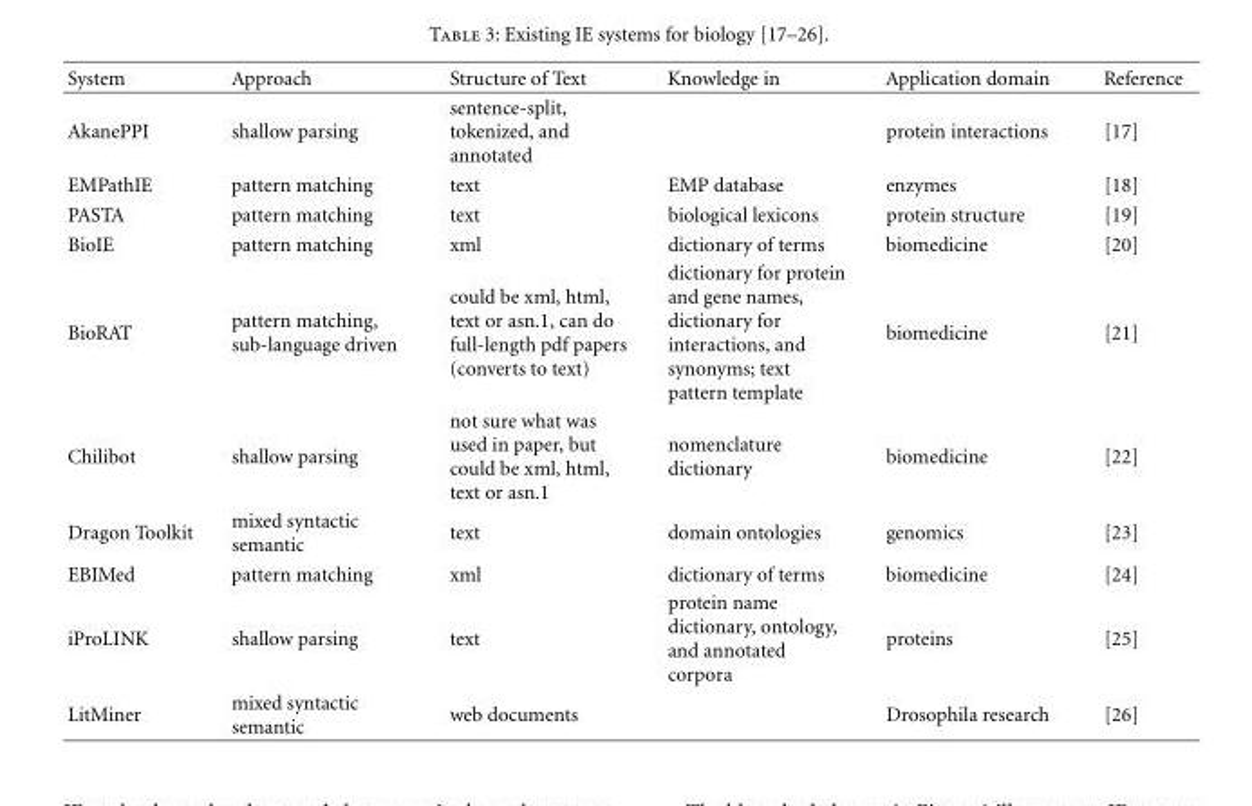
<table><thead><tr><td>System</td><td>Approach</td><td>Structure of Text</td><td>Knowledge in</td><td>Application domain</td><td>Reference</td></tr></thead><tbody><tr><td>AkanePPI</td><td>shallow parsing</td><td>sentence-split, tokenized, and annotated</td><td></td><td>protein interactions</td><td>[17]</td></tr><tr><td>EMPathIE</td><td>pattern matching</td><td>text</td><td>EMP database</td><td>enzymes</td><td>[18]</td></tr><tr><td>PASTA</td><td>pattern matching</td><td>text</td><td>biological lexicons</td><td>protein structure</td><td>[19]</td></tr><tr><td>BioIE</td><td>pattern matching</td><td>xml</td><td>dictionary of terms</td><td>biomedicine</td><td>[20]</td></tr><tr><td>BioRAT</td><td>pattern matching, sub-language driven</td><td>could be xml, html, text or asn.1, can do full-length pdf papers (converts to text)</td><td>dictionary for protein and gene names, dictionary for interactions, and synonyms; text pattern template</td><td>biomedicine</td><td>[21]</td></tr><tr><td>Chilibot</td><td>shallow parsing</td><td>not sure what was used in paper, but could be xml, html, text or asn.1</td><td>nomenclature dictionary</td><td>biomedicine</td><td>[22]</td></tr><tr><td>Dragon Toolkit</td><td>mixed syntactic semantic</td><td>text</td><td>domain ontologies</td><td>genomics</td><td>[23]</td></tr><tr><td>EBIMed</td><td>pattern matching</td><td>xml</td><td>dictionary of terms</td><td>biomedicine</td><td>[24]</td></tr><tr><td>iProLINK</td><td>shallow parsing</td><td>text</td><td>protein name dictionary, ontology, and annotated corpora</td><td>proteins</td><td>[25]</td></tr><tr><td>LitMiner</td><td>mixed syntactic semantic</td><td>web documents</td><td></td><td>Drosophila research</td><td>[26]</td></tr></tbody></table>